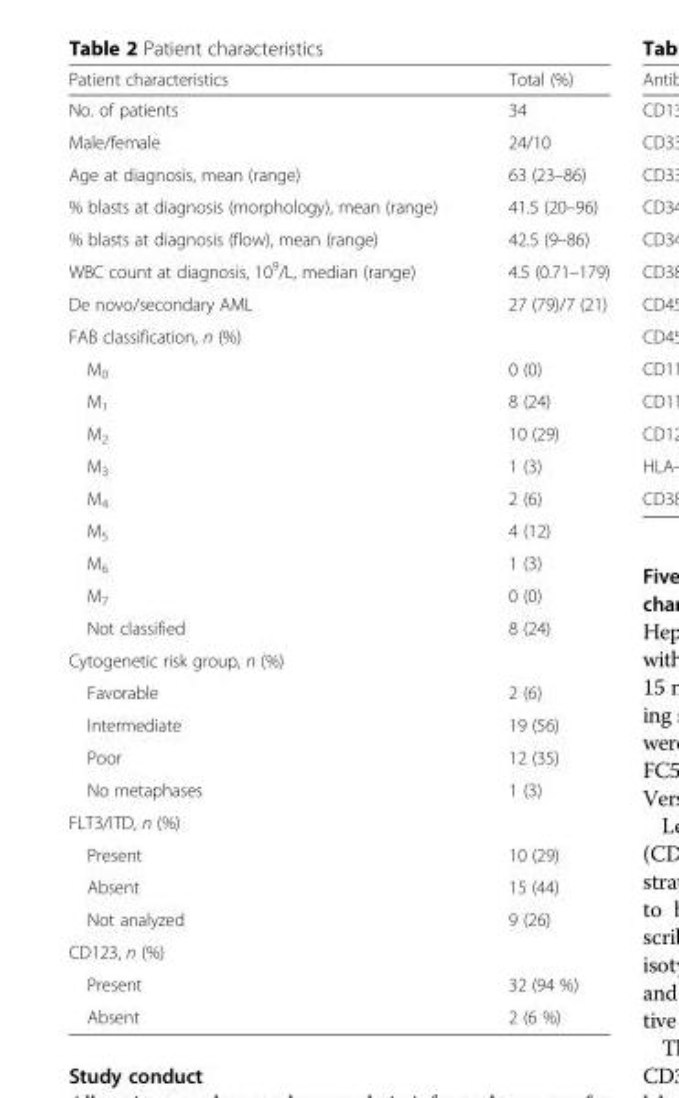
<table><thead><tr><td>Patient characteristics</td><td>Total (%)</td></tr></thead><tbody><tr><td>No. of patients</td><td>34</td></tr><tr><td>Male/female</td><td>24/10</td></tr><tr><td>Age at diagnosis, mean (range)</td><td>63 (23–86)</td></tr><tr><td>% blasts at diagnosis (morphology), mean (range)</td><td>41.5 (20–96)</td></tr><tr><td>% blasts at diagnosis (flow), mean (range)</td><td>42.5 (9–86)</td></tr><tr><td>WBC count at diagnosis, 10<sup>9</sup>/L, median (range)</td><td>4.5 (0.71–179)</td></tr><tr><td>De novo/secondary AML</td><td>27 (79)/7 (21)</td></tr><tr><td colspan="2">FAB classification, n (%)</td></tr><tr><td>M<sub>0</sub></td><td>0 (0)</td></tr><tr><td>M<sub>1</sub></td><td>8 (24)</td></tr><tr><td>M<sub>2</sub></td><td>10 (29)</td></tr><tr><td>M<sub>3</sub></td><td>1 (3)</td></tr><tr><td>M<sub>4</sub></td><td>2 (6)</td></tr><tr><td>M<sub>5</sub></td><td>4 (12)</td></tr><tr><td>M<sub>6</sub></td><td>1 (3)</td></tr><tr><td>M<sub>7</sub></td><td>0 (0)</td></tr><tr><td>Not classified</td><td>8 (24)</td></tr><tr><td colspan="2">Cytogenetic risk group, n (%)</td></tr><tr><td>Favorable</td><td>2 (6)</td></tr><tr><td>Intermediate</td><td>19 (56)</td></tr><tr><td>Poor</td><td>12 (35)</td></tr><tr><td>No metaphases</td><td>1 (3)</td></tr><tr><td colspan="2">FLT3/ITD, n (%)</td></tr><tr><td>Present</td><td>10 (29)</td></tr><tr><td>Absent</td><td>15 (44)</td></tr><tr><td>Not analyzed</td><td>9 (26)</td></tr><tr><td colspan="2">CD123, n (%)</td></tr><tr><td>Present</td><td>32 (94 %)</td></tr><tr><td>Absent</td><td>2 (6 %)</td></tr></tbody></table>